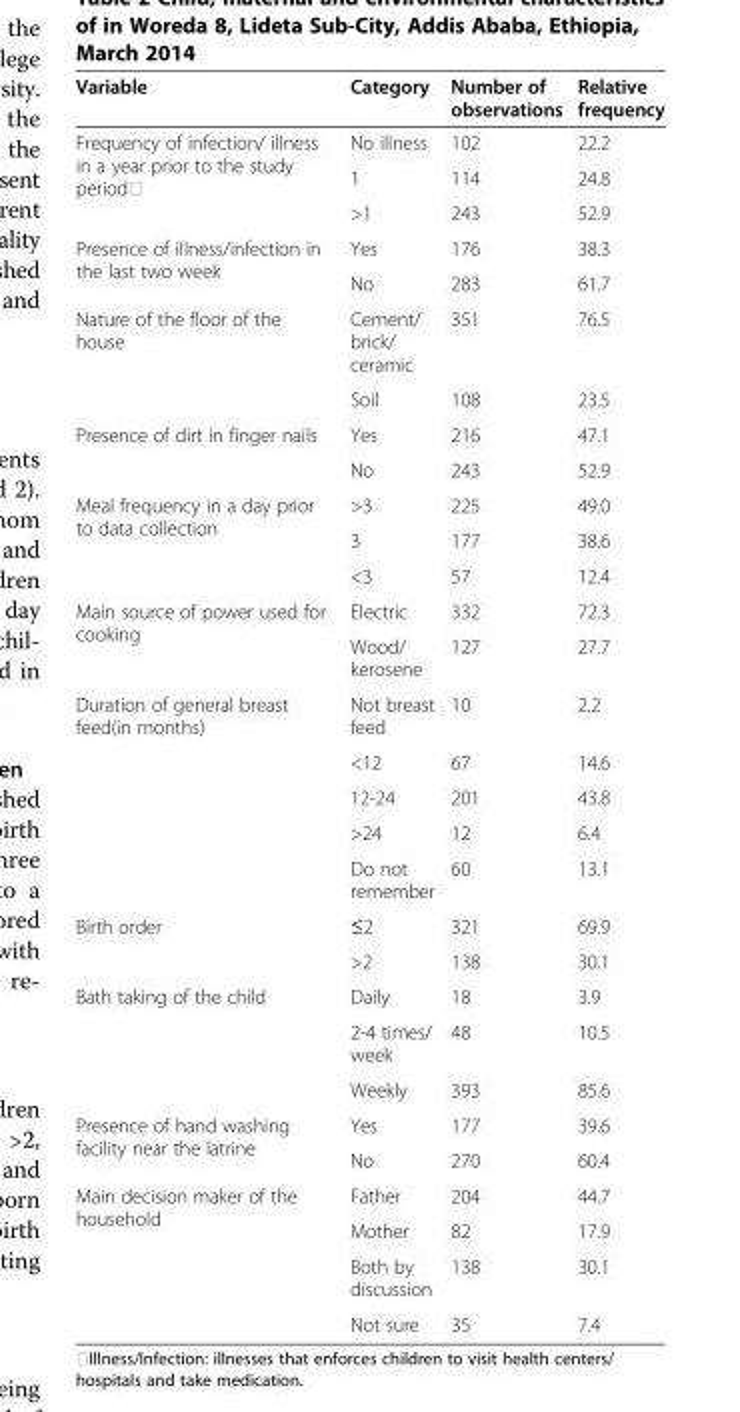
<table><thead><tr><td>Variable</td><td>Category</td><td>Number of observations</td><td>Relative frequency</td></tr></thead><tbody><tr><td rowspan="3">Frequency of infection/ illness in a year prior to the study period⁯</td><td>No illness</td><td>102</td><td>22.2</td></tr><tr><td>1</td><td>114</td><td>24.8</td></tr><tr><td>&gt;1</td><td>243</td><td>52.9</td></tr><tr><td rowspan="2">Presence of illness/infection in the last two week</td><td>Yes</td><td>176</td><td>38.3</td></tr><tr><td>No</td><td>283</td><td>61.7</td></tr><tr><td rowspan="2">Nature of the floor of the house</td><td>Cement/ brick/ ceramic</td><td>351</td><td>76.5</td></tr><tr><td>Soil</td><td>108</td><td>23.5</td></tr><tr><td rowspan="2">Presence of dirt in finger nails</td><td>Yes</td><td>216</td><td>47.1</td></tr><tr><td>No</td><td>243</td><td>52.9</td></tr><tr><td rowspan="3">Meal frequency in a day prior to data collection</td><td>&gt;3</td><td>225</td><td>49.0</td></tr><tr><td>3</td><td>177</td><td>38.6</td></tr><tr><td>&lt;3</td><td>57</td><td>12.4</td></tr><tr><td rowspan="2">Main source of power used for cooking</td><td>Electric</td><td>332</td><td>72.3</td></tr><tr><td>Wood/ kerosene</td><td>127</td><td>27.7</td></tr><tr><td rowspan="5">Duration of general breast feed(in months)</td><td>Not breast feed</td><td>10</td><td>2.2</td></tr><tr><td>&lt;12</td><td>67</td><td>14.6</td></tr><tr><td>12-24</td><td>201</td><td>43.8</td></tr><tr><td>&gt;24</td><td>12</td><td>6.4</td></tr><tr><td>Do not remember</td><td>60</td><td>13.1</td></tr><tr><td rowspan="2">Birth order</td><td>≤2</td><td>321</td><td>69.9</td></tr><tr><td>&gt;2</td><td>138</td><td>30.1</td></tr><tr><td rowspan="3">Bath taking of the child</td><td>Daily</td><td>18</td><td>3.9</td></tr><tr><td>2-4 times/ week</td><td>48</td><td>10.5</td></tr><tr><td>Weekly</td><td>393</td><td>85.6</td></tr><tr><td rowspan="2">Presence of hand washing facility near the latrine</td><td>Yes</td><td>177</td><td>39.6</td></tr><tr><td>No</td><td>270</td><td>60.4</td></tr><tr><td rowspan="4">Main decision maker of the household</td><td>Father</td><td>204</td><td>44.7</td></tr><tr><td>Mother</td><td>82</td><td>17.9</td></tr><tr><td>Both by discussion</td><td>138</td><td>30.1</td></tr><tr><td>Not sure</td><td>35</td><td>7.4</td></tr></tbody></table>